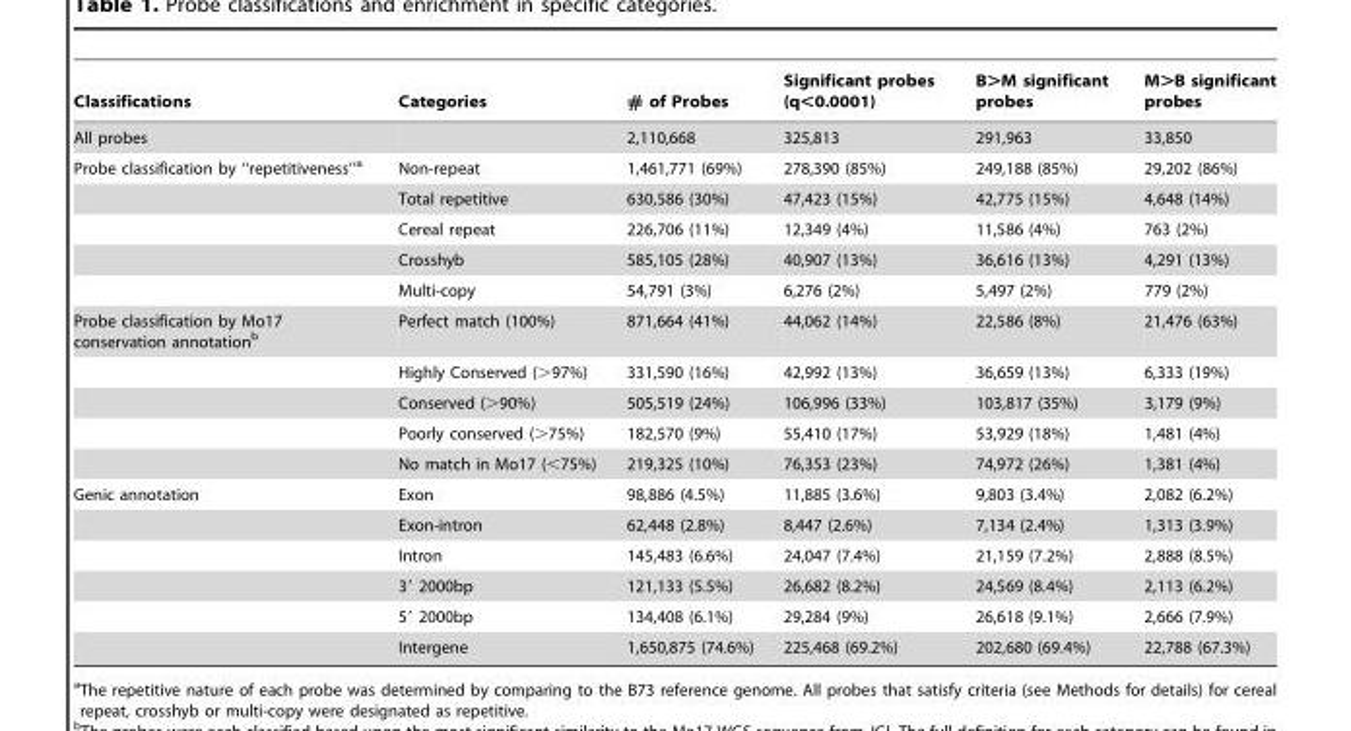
<table><thead><tr><td>Classifications</td><td>Categories</td><td># of Probes</td><td>Significant probes (q&lt;0.0001)</td><td>B&gt;M significant probes</td><td>M&gt;B significant probes</td></tr></thead><tbody><tr><td>All probes</td><td></td><td>2,110,668</td><td>325,813</td><td>291,963</td><td>33,850</td></tr><tr><td rowspan="5">Probe classification by ‘‘repetitiveness’’a</td><td>Non-repeat</td><td>1,461,771 (69%)</td><td>278,390 (85%)</td><td>249,188 (85%)</td><td>29,202 (86%)</td></tr><tr><td>Total repetitive</td><td>630,586 (30%)</td><td>47,423 (15%)</td><td>42,775 (15%)</td><td>4,648 (14%)</td></tr><tr><td>Cereal repeat</td><td>226,706 (11%)</td><td>12,349 (4%)</td><td>11,586 (4%)</td><td>763 (2%)</td></tr><tr><td>Crosshyb</td><td>585,105 (28%)</td><td>40,907 (13%)</td><td>36,616 (13%)</td><td>4,291 (13%)</td></tr><tr><td>Multi-copy</td><td>54,791 (3%)</td><td>6,276 (2%)</td><td>5,497 (2%)</td><td>779 (2%)</td></tr><tr><td rowspan="5">Probe classification by Mo17 conservation annotation<sup>b</sup></td><td>Perfect match (100%)</td><td>871,664 (41%)</td><td>44,062 (14%)</td><td>22,586 (8%)</td><td>21,476 (63%)</td></tr><tr><td>Highly Conserved (&gt;97%)</td><td>331,590 (16%)</td><td>42,992 (13%)</td><td>36,659 (13%)</td><td>6,333 (19%)</td></tr><tr><td>Conserved (&gt;90%)</td><td>505,519 (24%)</td><td>106,996 (33%)</td><td>103,817 (35%)</td><td>3,179 (9%)</td></tr><tr><td>Poorly conserved (&gt;75%)</td><td>182,570 (9%)</td><td>55,410 (17%)</td><td>53,929 (18%)</td><td>1,481 (4%)</td></tr><tr><td>No match in Mo17 (&lt;75%)</td><td>219,325 (10%)</td><td>76,353 (23%)</td><td>74,972 (26%)</td><td>1,381 (4%)</td></tr><tr><td rowspan="6">Genic annotation</td><td>Exon</td><td>98,886 (4.5%)</td><td>11,885 (3.6%)</td><td>9,803 (3.4%)</td><td>2,082 (6.2%)</td></tr><tr><td>Exon-intron</td><td>62,448 (2.8%)</td><td>8,447 (2.6%)</td><td>7,134 (2.4%)</td><td>1,313 (3.9%)</td></tr><tr><td>Intron</td><td>145,483 (6.6%)</td><td>24,047 (7.4%)</td><td>21,159 (7.2%)</td><td>2,888 (8.5%)</td></tr><tr><td>3′ 2000bp</td><td>121,133 (5.5%)</td><td>26,682 (8.2%)</td><td>24,569 (8.4%)</td><td>2,113 (6.2%)</td></tr><tr><td>5′ 2000bp</td><td>134,408 (6.1%)</td><td>29,284 (9%)</td><td>26,618 (9.1%)</td><td>2,666 (7.9%)</td></tr><tr><td>Intergene</td><td>1,650,875 (74.6%)</td><td>225,468 (69.2%)</td><td>202,680 (69.4%)</td><td>22,788 (67.3%)</td></tr></tbody></table>